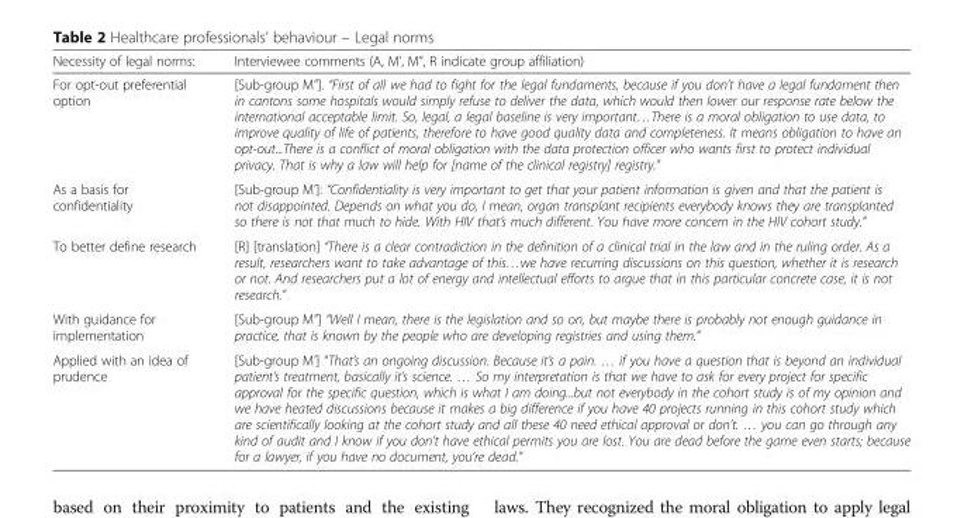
<table><thead><tr><td>Necessity of legal norms:</td><td>Interviewee comments (A, M’, M”, R indicate group affiliation)</td></tr></thead><tbody><tr><td>For opt-out preferential option</td><td>[Sub-group M”]. “First of all we had to fight for the legal fundaments, because if you don’t have a legal fundament then in cantons some hospitals would simply refuse to deliver the data, which would then lower our response rate below the international acceptable limit. So, legal, a legal baseline is very important…There is a moral obligation to use data, to improve quality of life of patients, therefore to have good quality data and completeness. It means obligation to have an opt-out...There is a conflict of moral obligation with the data protection officer who wants first to protect individual privacy. That is why a law will help for [name of the clinical registry] registry.”</td></tr><tr><td>As a basis for confidentiality</td><td>[Sub-group M’]: “Confidentiality is very important to get that your patient information is given and that the patient is not disappointed. Depends on what you do, I mean, organ transplant recipients everybody knows they are transplanted so there is not that much to hide. With HIV that’s much different. You have more concern in the HIV cohort study.”</td></tr><tr><td>To better define research</td><td>[R] [translation] “There is a clear contradiction in the definition of a clinical trial in the law and in the ruling order. As a result, researchers want to take advantage of this…we have recurring discussions on this question, whether it is research or not. And researchers put a lot of energy and intellectual efforts to argue that in this particular concrete case, it is not research.”</td></tr><tr><td>With guidance for implementation</td><td>[Sub-group M”] “Well I mean, there is the legislation and so on, but maybe there is probably not enough guidance in practice, that is known by the people who are developing registries and using them.”</td></tr><tr><td>Applied with an idea of prudence</td><td>[Sub-group M’] “That’s an ongoing discussion. Because it’s a pain. … if you have a question that is beyond an individual patient’s treatment, basically it’s science. … So my interpretation is that we have to ask for every project for specific approval for the specific question, which is what I am doing...but not everybody in the cohort study is of my opinion and we have heated discussions because it makes a big difference if you have 40 projects running in this cohort study which are scientifically looking at the cohort study and all these 40 need ethical approval or don’t. … you can go through any kind of audit and I know if you don’t have ethical permits you are lost. You are dead before the game even starts; because for a lawyer, if you have no document, you’re dead.”</td></tr></tbody></table>